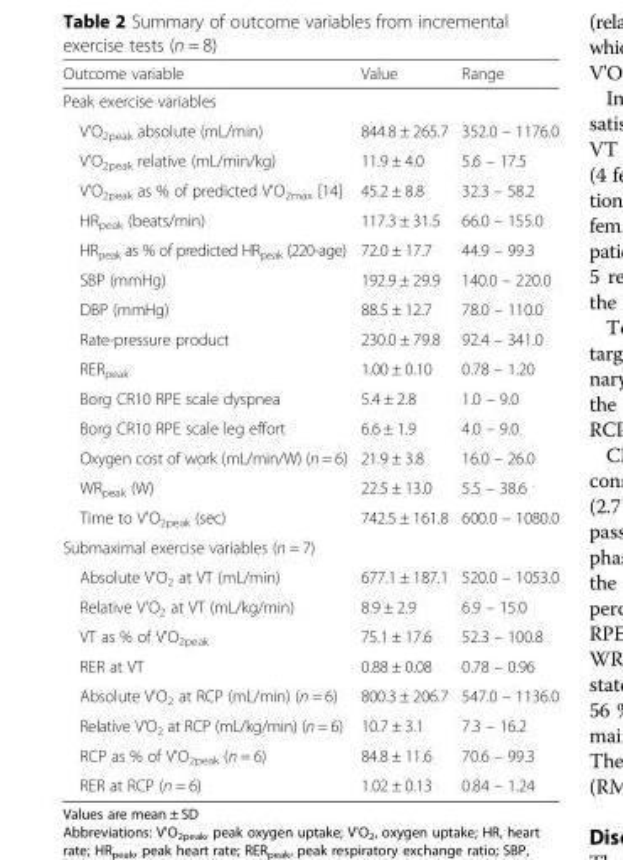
<table><thead><tr><td>Outcome variable</td><td>Value</td><td>Range</td></tr></thead><tbody><tr><td colspan="3">Peak exercise variables</td></tr><tr><td>V&#x27;O<sub>2peak</sub> absolute (mL/min)</td><td>844.8 ± 265.7</td><td>352.0 – 1176.0</td></tr><tr><td>V&#x27;O<sub>2peak</sub> relative (mL/min/kg)</td><td>11.9 ± 4.0</td><td>5.6 – 17.5</td></tr><tr><td>V&#x27;O<sub>2peak</sub> as % of predicted V&#x27;O<sub>2max</sub> [14]</td><td>45.2 ± 8.8</td><td>32.3 – 58.2</td></tr><tr><td>HR<sub>peak</sub> (beats/min)</td><td>117.3 ± 31.5</td><td>66.0 – 155.0</td></tr><tr><td>HR<sub>peak</sub> as % of predicted HR<sub>peak</sub> (220-age)</td><td>72.0 ± 17.7</td><td>44.9 – 99.3</td></tr><tr><td>SBP (mmHg)</td><td>192.9 ± 29.9</td><td>140.0 – 220.0</td></tr><tr><td>DBP (mmHg)</td><td>88.5 ± 12.7</td><td>78.0 – 110.0</td></tr><tr><td>Rate-pressure product</td><td>230.0 ± 79.8</td><td>92.4 – 341.0</td></tr><tr><td>RER<sub>peak</sub></td><td>1.00 ± 0.10</td><td>0.78 – 1.20</td></tr><tr><td>Borg CR10 RPE scale dyspnea</td><td>5.4 ± 2.8</td><td>1.0 – 9.0</td></tr><tr><td>Borg CR10 RPE scale leg effort</td><td>6.6 ± 1.9</td><td>4.0 – 9.0</td></tr><tr><td>Oxygen cost of work (mL/min/W) (n = 6)</td><td>21.9 ± 3.8</td><td>16.0 – 26.0</td></tr><tr><td>WR<sub>peak</sub> (W)</td><td>22.5 ± 13.0</td><td>5.5 – 38.6</td></tr><tr><td>Time to V&#x27;O<sub>2peak</sub> (sec)</td><td>742.5 ± 161.8</td><td>600.0 – 1080.0</td></tr><tr><td colspan="3">Submaximal exercise variables (n = 7)</td></tr><tr><td>Absolute V&#x27;O<sub>2</sub> at VT (mL/min)</td><td>677.1 ± 187.1</td><td>520.0 – 1053.0</td></tr><tr><td>Relative V&#x27;O<sub>2</sub> at VT (mL/kg/min)</td><td>8.9 ± 2.9</td><td>6.9 – 15.0</td></tr><tr><td>VT as % of V&#x27;O<sub>2peak</sub></td><td>75.1 ± 17.6</td><td>52.3 – 100.8</td></tr><tr><td>RER at VT</td><td>0.88 ± 0.08</td><td>0.78 – 0.96</td></tr><tr><td>Absolute V&#x27;O<sub>2</sub> at RCP (mL/min) (n = 6)</td><td>800.3 ± 206.7</td><td>547.0 – 1136.0</td></tr><tr><td>Relative V&#x27;O<sub>2</sub> at RCP (mL/kg/min) (n = 6)</td><td>10.7 ± 3.1</td><td>7.3 – 16.2</td></tr><tr><td>RCP as % of V&#x27;O<sub>2peak</sub> (n = 6)</td><td>84.8 ± 11.6</td><td>70.6 – 99.3</td></tr><tr><td>RER at RCP (n = 6)</td><td>1.02 ± 0.13</td><td>0.84 – 1.24</td></tr></tbody></table>